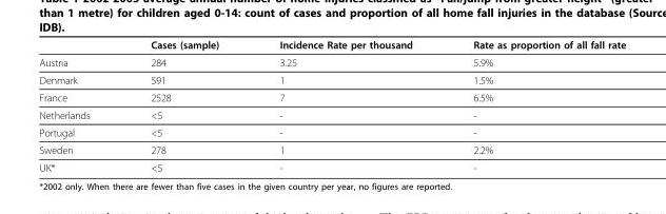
<table><thead><tr><td></td><td>Cases (sample)</td><td>Incidence Rate per thousand</td><td>Rate as proportion of all fall rate</td></tr></thead><tbody><tr><td>Austria</td><td>284</td><td>3.25</td><td>5.9%</td></tr><tr><td>Denmark</td><td>591</td><td>1</td><td>1.5%</td></tr><tr><td>France</td><td>2528</td><td>7</td><td>6.5%</td></tr><tr><td>Netherlands</td><td>&lt;5</td><td>-</td><td>-</td></tr><tr><td>Portugal</td><td>&lt;5</td><td>-</td><td>-</td></tr><tr><td>Sweden</td><td>278</td><td>1</td><td>2.2%</td></tr><tr><td>UK*</td><td>&lt;5</td><td>-</td><td>-</td></tr></tbody></table>